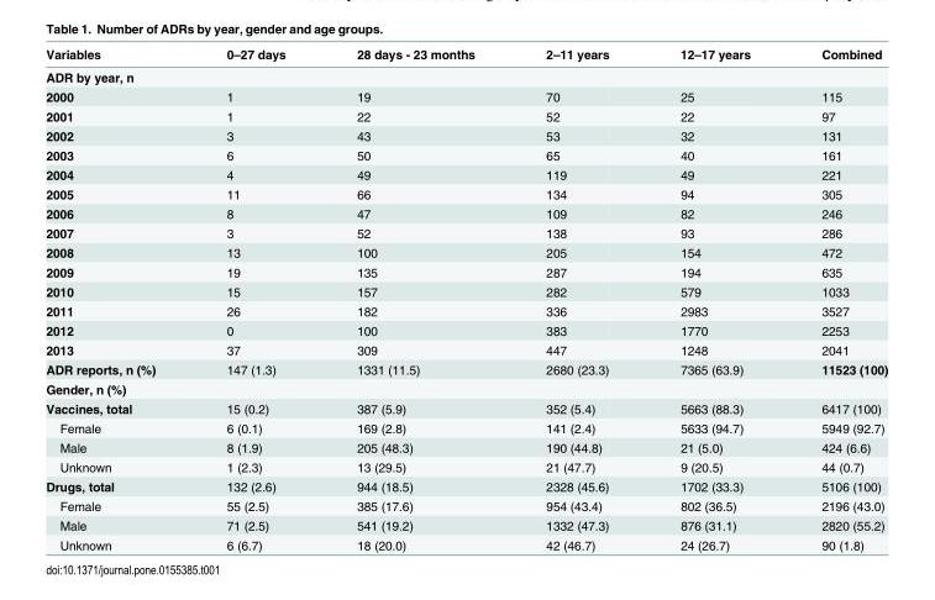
<table><thead><tr><td>Variables</td><td>0–27 days</td><td>28 days - 23 months</td><td>2–11 years</td><td>12–17 years</td><td>Combined</td></tr></thead><tbody><tr><td colspan="6">ADR by year, n</td></tr><tr><td>2000</td><td>1</td><td>19</td><td>70</td><td>25</td><td>115</td></tr><tr><td>2001</td><td>1</td><td>22</td><td>52</td><td>22</td><td>97</td></tr><tr><td>2002</td><td>3</td><td>43</td><td>53</td><td>32</td><td>131</td></tr><tr><td>2003</td><td>6</td><td>50</td><td>65</td><td>40</td><td>161</td></tr><tr><td>2004</td><td>4</td><td>49</td><td>119</td><td>49</td><td>221</td></tr><tr><td>2005</td><td>11</td><td>66</td><td>134</td><td>94</td><td>305</td></tr><tr><td>2006</td><td>8</td><td>47</td><td>109</td><td>82</td><td>246</td></tr><tr><td>2007</td><td>3</td><td>52</td><td>138</td><td>93</td><td>286</td></tr><tr><td>2008</td><td>13</td><td>100</td><td>205</td><td>154</td><td>472</td></tr><tr><td>2009</td><td>19</td><td>135</td><td>287</td><td>194</td><td>635</td></tr><tr><td>2010</td><td>15</td><td>157</td><td>282</td><td>579</td><td>1033</td></tr><tr><td>2011</td><td>26</td><td>182</td><td>336</td><td>2983</td><td>3527</td></tr><tr><td>2012</td><td>0</td><td>100</td><td>383</td><td>1770</td><td>2253</td></tr><tr><td>2013</td><td>37</td><td>309</td><td>447</td><td>1248</td><td>2041</td></tr><tr><td>ADR reports, n (%)</td><td>147 (1.3)</td><td>1331 (11.5)</td><td>2680 (23.3)</td><td>7365 (63.9)</td><td>11523 (100)</td></tr><tr><td colspan="6">Gender, n (%)</td></tr><tr><td>Vaccines, total</td><td>15 (0.2)</td><td>387 (5.9)</td><td>352 (5.4)</td><td>5663 (88.3)</td><td>6417 (100)</td></tr><tr><td>Female</td><td>6 (0.1)</td><td>169 (2.8)</td><td>141 (2.4)</td><td>5633 (94.7)</td><td>5949 (92.7)</td></tr><tr><td>Male</td><td>8 (1.9)</td><td>205 (48.3)</td><td>190 (44.8)</td><td>21 (5.0)</td><td>424 (6.6)</td></tr><tr><td>Unknown</td><td>1 (2.3)</td><td>13 (29.5)</td><td>21 (47.7)</td><td>9 (20.5)</td><td>44 (0.7)</td></tr><tr><td>Drugs, total</td><td>132 (2.6)</td><td>944 (18.5)</td><td>2328 (45.6)</td><td>1702 (33.3)</td><td>5106 (100)</td></tr><tr><td>Female</td><td>55 (2.5)</td><td>385 (17.6)</td><td>954 (43.4)</td><td>802 (36.5)</td><td>2196 (43.0)</td></tr><tr><td>Male</td><td>71 (2.5)</td><td>541 (19.2)</td><td>1332 (47.3)</td><td>876 (31.1)</td><td>2820 (55.2)</td></tr><tr><td>Unknown</td><td>6 (6.7)</td><td>18 (20.0)</td><td>42 (46.7)</td><td>24 (26.7)</td><td>90 (1.8)</td></tr></tbody></table>